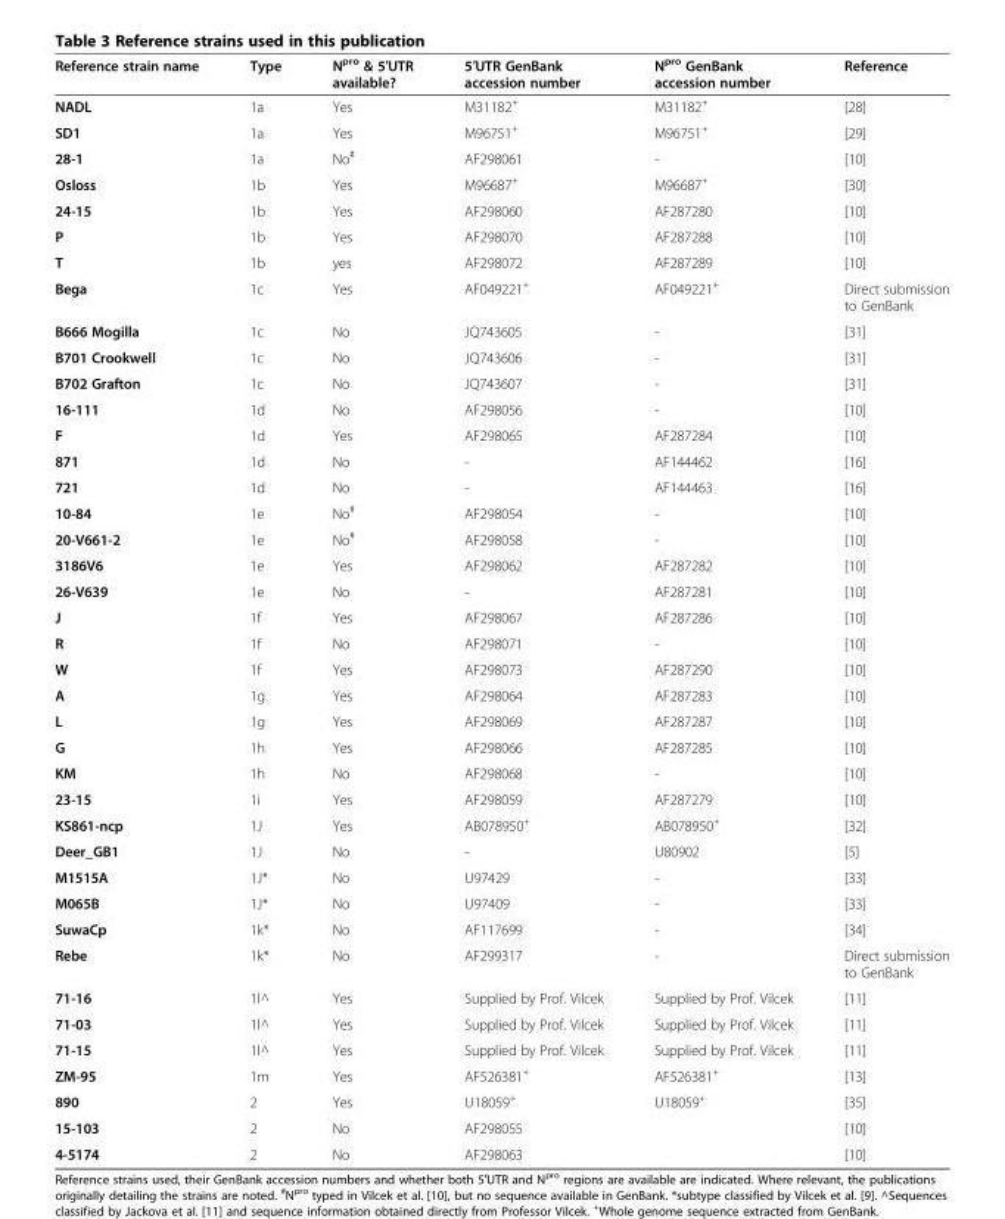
<table><thead><tr><td>Reference strain name</td><td>Type</td><td>N<sup>pro</sup> &amp; 5′UTR available?</td><td>5′UTR GenBank accession number</td><td>N<sup>pro</sup> GenBank accession number</td><td>Reference</td></tr></thead><tbody><tr><td>NADL</td><td>1a</td><td>Yes</td><td>M31182<sup>+</sup></td><td>M31182<sup>+</sup></td><td>[28]</td></tr><tr><td>SD1</td><td>1a</td><td>Yes</td><td>M96751<sup>+</sup></td><td>M96751<sup>+</sup></td><td>[29]</td></tr><tr><td>28-1</td><td>1a</td><td>No<sup>#</sup></td><td>AF298061</td><td>-</td><td>[10]</td></tr><tr><td>Osloss</td><td>1b</td><td>Yes</td><td>M96687<sup>+</sup></td><td>M96687<sup>+</sup></td><td>[30]</td></tr><tr><td>24-15</td><td>1b</td><td>Yes</td><td>AF298060</td><td>AF287280</td><td>[10]</td></tr><tr><td>P</td><td>1b</td><td>Yes</td><td>AF298070</td><td>AF287288</td><td>[10]</td></tr><tr><td>T</td><td>1b</td><td>yes</td><td>AF298072</td><td>AF287289</td><td>[10]</td></tr><tr><td>Bega</td><td>1c</td><td>Yes</td><td>AF049221<sup>+</sup></td><td>AF049221<sup>+</sup></td><td>Direct submission to GenBank</td></tr><tr><td>B666 Mogilla</td><td>1c</td><td>No</td><td>JQ743605</td><td>-</td><td>[31]</td></tr><tr><td>B701 Crookwell</td><td>1c</td><td>No</td><td>JQ743606</td><td>-</td><td>[31]</td></tr><tr><td>B702 Grafton</td><td>1c</td><td>No</td><td>JQ743607</td><td>-</td><td>[31]</td></tr><tr><td>16-111</td><td>1d</td><td>No</td><td>AF298056</td><td>-</td><td>[10]</td></tr><tr><td>F</td><td>1d</td><td>Yes</td><td>AF298065</td><td>AF287284</td><td>[10]</td></tr><tr><td>871</td><td>1d</td><td>No</td><td>-</td><td>AF144462</td><td>[16]</td></tr><tr><td>721</td><td>1d</td><td>No</td><td>-</td><td>AF144463</td><td>[16]</td></tr><tr><td>10-84</td><td>1e</td><td>No<sup>#</sup></td><td>AF298054</td><td>-</td><td>[10]</td></tr><tr><td>20-V661-2</td><td>1e</td><td>No<sup>#</sup></td><td>AF298058</td><td>-</td><td>[10]</td></tr><tr><td>3186V6</td><td>1e</td><td>Yes</td><td>AF298062</td><td>AF287282</td><td>[10]</td></tr><tr><td>26-V639</td><td>1e</td><td>No</td><td>-</td><td>AF287281</td><td>[10]</td></tr><tr><td>J</td><td>1f</td><td>Yes</td><td>AF298067</td><td>AF287286</td><td>[10]</td></tr><tr><td>R</td><td>1f</td><td>No</td><td>AF298071</td><td>-</td><td>[10]</td></tr><tr><td>W</td><td>1f</td><td>Yes</td><td>AF298073</td><td>AF287290</td><td>[10]</td></tr><tr><td>A</td><td>1g</td><td>Yes</td><td>AF298064</td><td>AF287283</td><td>[10]</td></tr><tr><td>L</td><td>1g</td><td>Yes</td><td>AF298069</td><td>AF287287</td><td>[10]</td></tr><tr><td>G</td><td>1h</td><td>Yes</td><td>AF298066</td><td>AF287285</td><td>[10]</td></tr><tr><td>KM</td><td>1h</td><td>No</td><td>AF298068</td><td>-</td><td>[10]</td></tr><tr><td>23-15</td><td>1i</td><td>Yes</td><td>AF298059</td><td>AF287279</td><td>[10]</td></tr><tr><td>KS861-ncp</td><td>1J</td><td>Yes</td><td>AB078950<sup>+</sup></td><td>AB078950<sup>+</sup></td><td>[32]</td></tr><tr><td>Deer_GB1</td><td>1J</td><td>No</td><td>-</td><td>U80902</td><td>[5]</td></tr><tr><td>M1515A</td><td>1J*</td><td>No</td><td>U97429</td><td>-</td><td>[33]</td></tr><tr><td>M065B</td><td>1J*</td><td>No</td><td>U97409</td><td>-</td><td>[33]</td></tr><tr><td>SuwaCp</td><td>1k*</td><td>No</td><td>AF117699</td><td>-</td><td>[34]</td></tr><tr><td>Rebe</td><td>1k*</td><td>No</td><td>AF299317</td><td>-</td><td>Direct submission to GenBank</td></tr><tr><td>71-16</td><td>1l^</td><td>Yes</td><td>Supplied by Prof. Vilcek</td><td>Supplied by Prof. Vilcek</td><td>[11]</td></tr><tr><td>71-03</td><td>1l^</td><td>Yes</td><td>Supplied by Prof. Vilcek</td><td>Supplied by Prof. Vilcek</td><td>[11]</td></tr><tr><td>71-15</td><td>1l^</td><td>Yes</td><td>Supplied by Prof. Vilcek</td><td>Supplied by Prof. Vilcek</td><td>[11]</td></tr><tr><td>ZM-95</td><td>1m</td><td>Yes</td><td>AF526381<sup>+</sup></td><td>AF526381<sup>+</sup></td><td>[13]</td></tr><tr><td>890</td><td>2</td><td>Yes</td><td>U18059<sup>+</sup></td><td>U18059<sup>+</sup></td><td>[35]</td></tr><tr><td>15-103</td><td>2</td><td>No</td><td>AF298055</td><td></td><td>[10]</td></tr><tr><td>4-5174</td><td>2</td><td>No</td><td>AF298063</td><td></td><td>[10]</td></tr></tbody></table>